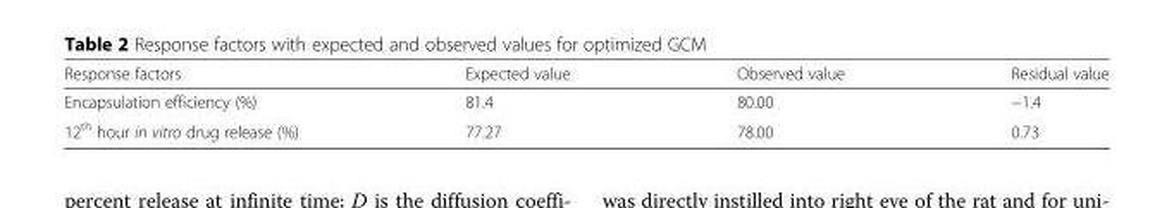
<table><thead><tr><td>Response factors</td><td>Expected value</td><td>Observed value</td><td>Residual value</td></tr></thead><tbody><tr><td>Encapsulation efficiency (%)</td><td>81.4</td><td>80.00</td><td>−1.4</td></tr><tr><td>12<sup>th</sup> hour in vitro drug release (%)</td><td>77.27</td><td>78.00</td><td>0.73</td></tr></tbody></table>